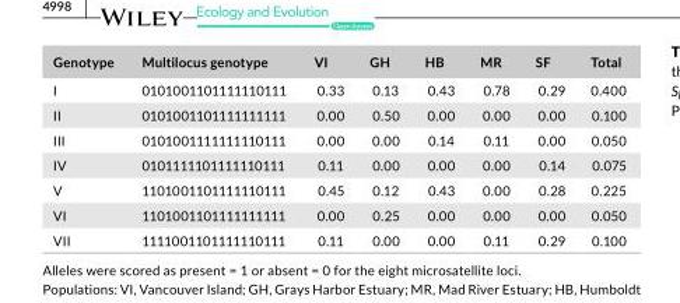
<table><thead><tr><td>Genotype</td><td>Multilocus genotype</td><td>VI</td><td>GH</td><td>HB</td><td>MR</td><td>SF</td><td>Total</td></tr></thead><tbody><tr><td>I</td><td>0101001101111110111</td><td>0.33</td><td>0.13</td><td>0.43</td><td>0.78</td><td>0.29</td><td>0.400</td></tr><tr><td>II</td><td>0101001101111111111</td><td>0.00</td><td>0.50</td><td>0.00</td><td>0.00</td><td>0.00</td><td>0.100</td></tr><tr><td>III</td><td>0101001111111110111</td><td>0.00</td><td>0.00</td><td>0.14</td><td>0.11</td><td>0.00</td><td>0.050</td></tr><tr><td>IV</td><td>0101111101111110111</td><td>0.11</td><td>0.00</td><td>0.00</td><td>0.00</td><td>0.14</td><td>0.075</td></tr><tr><td>V</td><td>1101001101111110111</td><td>0.45</td><td>0.12</td><td>0.43</td><td>0.00</td><td>0.28</td><td>0.225</td></tr><tr><td>VI</td><td>1101001101111111111</td><td>0.00</td><td>0.25</td><td>0.00</td><td>0.00</td><td>0.00</td><td>0.050</td></tr><tr><td>VII</td><td>1111001101111110111</td><td>0.11</td><td>0.00</td><td>0.00</td><td>0.11</td><td>0.29</td><td>0.100</td></tr></tbody></table>